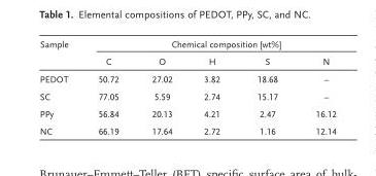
<table><thead><tr><td rowspan="2">Sample</td><td colspan="5">Chemical composition [wt%]</td></tr><tr><td>C</td><td>O</td><td>H</td><td>S</td><td>N</td></tr></thead><tbody><tr><td>PEDOT</td><td>50.72</td><td>27.02</td><td>3.82</td><td>18.68</td><td>–</td></tr><tr><td>SC</td><td>77.05</td><td>5.59</td><td>2.74</td><td>15.17</td><td>–</td></tr><tr><td>PPy</td><td>56.84</td><td>20.13</td><td>4.21</td><td>2.47</td><td>16.12</td></tr><tr><td>NC</td><td>66.19</td><td>17.64</td><td>2.72</td><td>1.16</td><td>12.14</td></tr></tbody></table>